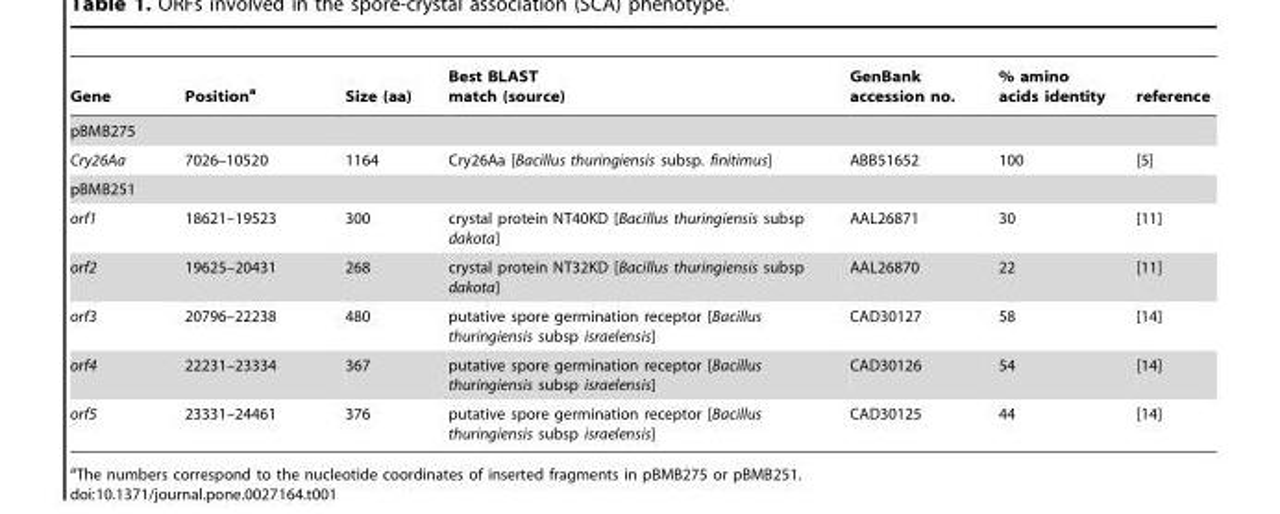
<table><thead><tr><td>Gene</td><td>Position<sup>a</sup></td><td>Size (aa)</td><td>Best BLAST match (source)</td><td>GenBank accession no.</td><td>% amino acids identity</td><td>reference</td></tr></thead><tbody><tr><td colspan="7">pBMB275</td></tr><tr><td>Cry26Aa</td><td>7026–10520</td><td>1164</td><td>Cry26Aa [Bacillus thuringiensis subsp. finitimus]</td><td>ABB51652</td><td>100</td><td>[5]</td></tr><tr><td colspan="7">pBMB251</td></tr><tr><td>orf1</td><td>18621–19523</td><td>300</td><td>crystal protein NT40KD [Bacillus thuringiensis subsp dakota]</td><td>AAL26871</td><td>30</td><td>[11]</td></tr><tr><td>orf2</td><td>19625–20431</td><td>268</td><td>crystal protein NT32KD [Bacillus thuringiensis subsp dakota]</td><td>AAL26870</td><td>22</td><td>[11]</td></tr><tr><td>orf3</td><td>20796–22238</td><td>480</td><td>putative spore germination receptor [Bacillus thuringiensis subsp israelensis]</td><td>CAD30127</td><td>58</td><td>[14]</td></tr><tr><td>orf4</td><td>22231–23334</td><td>367</td><td>putative spore germination receptor [Bacillus thuringiensis subsp israelensis]</td><td>CAD30126</td><td>54</td><td>[14]</td></tr><tr><td>orf5</td><td>23331–24461</td><td>376</td><td>putative spore germination receptor [Bacillus thuringiensis subsp israelensis]</td><td>CAD30125</td><td>44</td><td>[14]</td></tr></tbody></table>